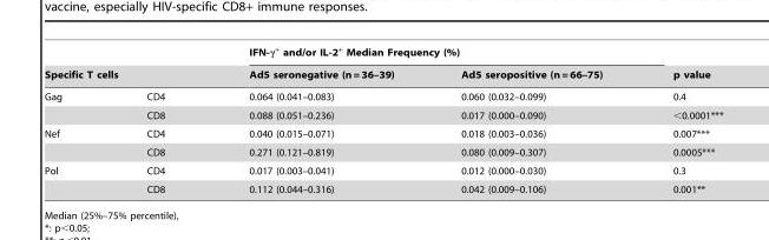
<table><thead><tr><td></td><td></td><td colspan="2">IFN-γ<sup>+</sup> and/or IL-2<sup>+</sup> Median Frequency (%)</td><td rowspan="2">p value</td></tr><tr><td colspan="2">Specific T cells</td><td>Ad5 seronegative (n = 36–39)</td><td>Ad5 seropositive (n = 66–75)</td></tr></thead><tbody><tr><td rowspan="2">Gag</td><td>CD4</td><td>0.064 (0.041–0.083)</td><td>0.060 (0.032–0.099)</td><td>0.4</td></tr><tr><td>CD8</td><td>0.088 (0.051–0.236)</td><td>0.017 (0.000–0.090)</td><td>&lt;0.0001***</td></tr><tr><td rowspan="2">Nef</td><td>CD4</td><td>0.040 (0.015–0.071)</td><td>0.018 (0.003–0.036)</td><td>0.007***</td></tr><tr><td>CD8</td><td>0.271 (0.121–0.819)</td><td>0.080 (0.009–0.307)</td><td>0.0005***</td></tr><tr><td rowspan="2">Pol</td><td>CD4</td><td>0.017 (0.003–0.041)</td><td>0.012 (0.000–0.030)</td><td>0.3</td></tr><tr><td>CD8</td><td>0.112 (0.044–0.316)</td><td>0.042 (0.009–0.106)</td><td>0.001**</td></tr></tbody></table>